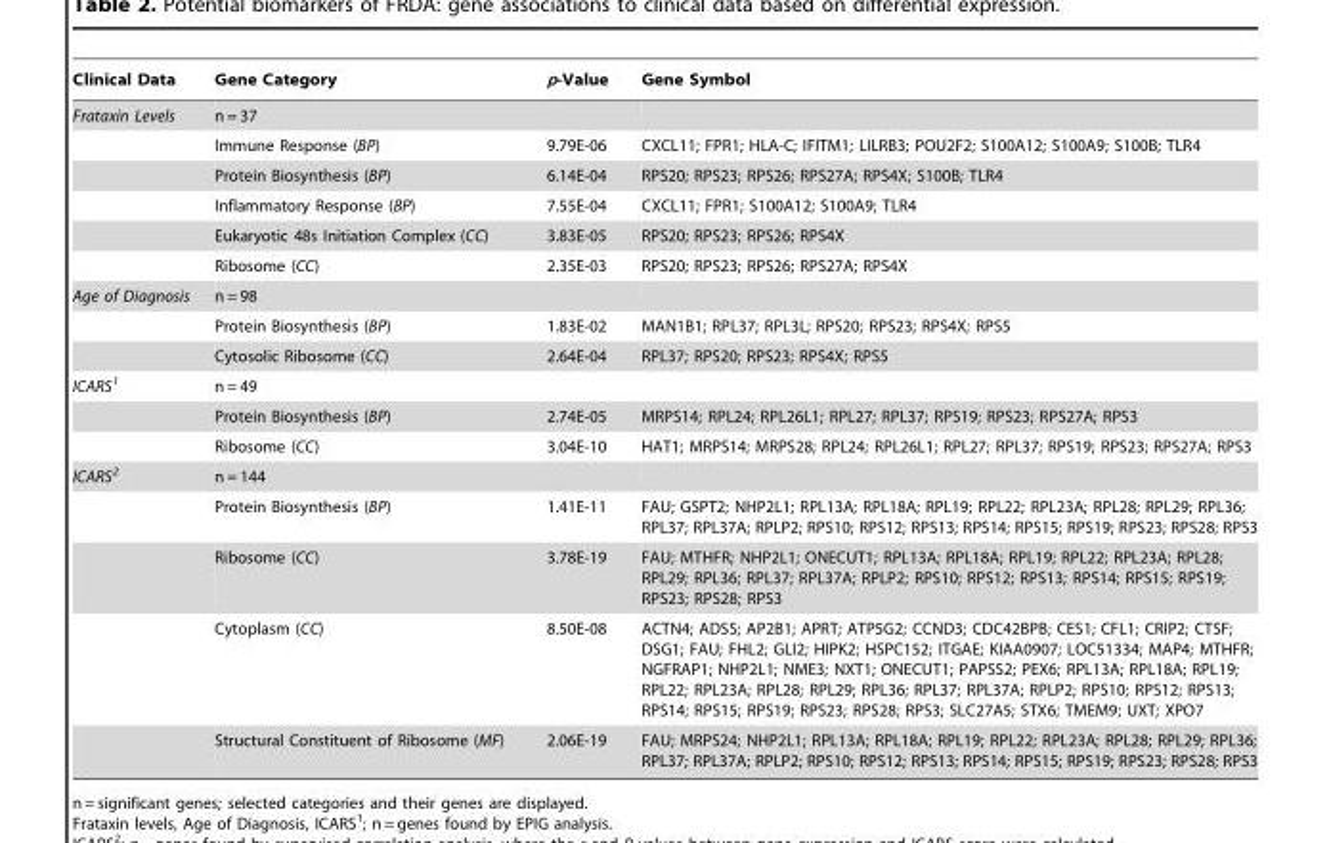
<table><thead><tr><td>Clinical Data</td><td>Gene Category</td><td>p-Value</td><td>Gene Symbol</td></tr></thead><tbody><tr><td rowspan="6">Frataxin Levels</td><td>n = 37</td><td></td><td></td></tr><tr><td>Immune Response (BP)</td><td>9.79E-06</td><td>CXCL11; FPR1; HLA-C; IFITM1; LILRB3; POU2F2; S100A12; S100A9; S100B; TLR4</td></tr><tr><td>Protein Biosynthesis (BP)</td><td>6.14E-04</td><td>RPS20; RPS23; RPS26; RPS27A; RPS4X; S100B; TLR4</td></tr><tr><td>Inflammatory Response (BP)</td><td>7.55E-04</td><td>CXCL11; FPR1; S100A12; S100A9; TLR4</td></tr><tr><td>Eukaryotic 48s Initiation Complex (CC)</td><td>3.83E-05</td><td>RPS20; RPS23; RPS26; RPS4X</td></tr><tr><td>Ribosome (CC)</td><td>2.35E-03</td><td>RPS20; RPS23; RPS26; RPS27A; RPS4X</td></tr><tr><td rowspan="3">Age of Diagnosis</td><td>n = 98</td><td></td><td></td></tr><tr><td>Protein Biosynthesis (BP)</td><td>1.83E-02</td><td>MAN1B1; RPL37; RPL3L; RPS20; RPS23; RPS4X; RPS5</td></tr><tr><td>Cytosolic Ribosome (CC)</td><td>2.64E-04</td><td>RPL37; RPS20; RPS23; RPS4X; RPS5</td></tr><tr><td rowspan="3">ICARS<sup>1</sup></td><td>n = 49</td><td></td><td></td></tr><tr><td>Protein Biosynthesis (BP)</td><td>2.74E-05</td><td>MRPS14; RPL24; RPL26L1; RPL27; RPL37; RPS19; RPS23; RPS27A; RPS3</td></tr><tr><td>Ribosome (CC)</td><td>3.04E-10</td><td>HAT1; MRPS14; MRPS28; RPL24; RPL26L1; RPL27; RPL37; RPS19; RPS23; RPS27A; RPS3</td></tr><tr><td rowspan="5">ICARS<sup>2</sup></td><td>n = 144</td><td></td><td></td></tr><tr><td>Protein Biosynthesis (BP)</td><td>1.41E-11</td><td>FAU; GSPT2; NHP2L1; RPL13A; RPL18A; RPL19; RPL22; RPL23A; RPL28; RPL29; RPL36; RPL37; RPL37A; RPLP2; RPS10; RPS12; RPS13; RPS14; RPS15; RPS19; RPS23; RPS28; RPS3</td></tr><tr><td>Ribosome (CC)</td><td>3.78E-19</td><td>FAU; MTHFR; NHP2L1; ONECUT1; RPL13A; RPL18A; RPL19; RPL22; RPL23A; RPL28; RPL29; RPL36; RPL37; RPL37A; RPLP2; RPS10; RPS12; RPS13; RPS14; RPS15; RPS19; RPS23; RPS28; RPS3</td></tr><tr><td>Cytoplasm (CC)</td><td>8.50E-08</td><td>ACTN4; ADSS; AP2B1; APRT; ATP5G2; CCND3; CDC42BPB; CES1; CFL1; CRIP2; CTSF; DSG1; FAU; FHL2; GLI2; HIPK2; HSPC152; ITGAE; KIAA0907; LOC51334; MAP4; MTHFR; NGFRAP1; NHP2L1; NME3; NXT1; ONECUT1; PAPSS2; PEX6; RPL13A; RPL18A; RPL19; RPL22; RPL23A; RPL28; RPL29; RPL36; RPL37; RPL37A; RPLP2; RPS10; RPS12; RPS13; RPS14; RPS15; RPS19; RPS23; RPS28; RPS3; SLC27A5; STX6; TMEM9; UXT; XPO7</td></tr><tr><td>Structural Constituent of Ribosome (MF)</td><td>2.06E-19</td><td>FAU; MRPS24; NHP2L1; RPL13A; RPL18A; RPL19; RPL22; RPL23A; RPL28; RPL29; RPL36; RPL37; RPL37A; RPLP2; RPS10; RPS12; RPS13; RPS14; RPS15; RPS19; RPS23; RPS28; RPS3</td></tr></tbody></table>